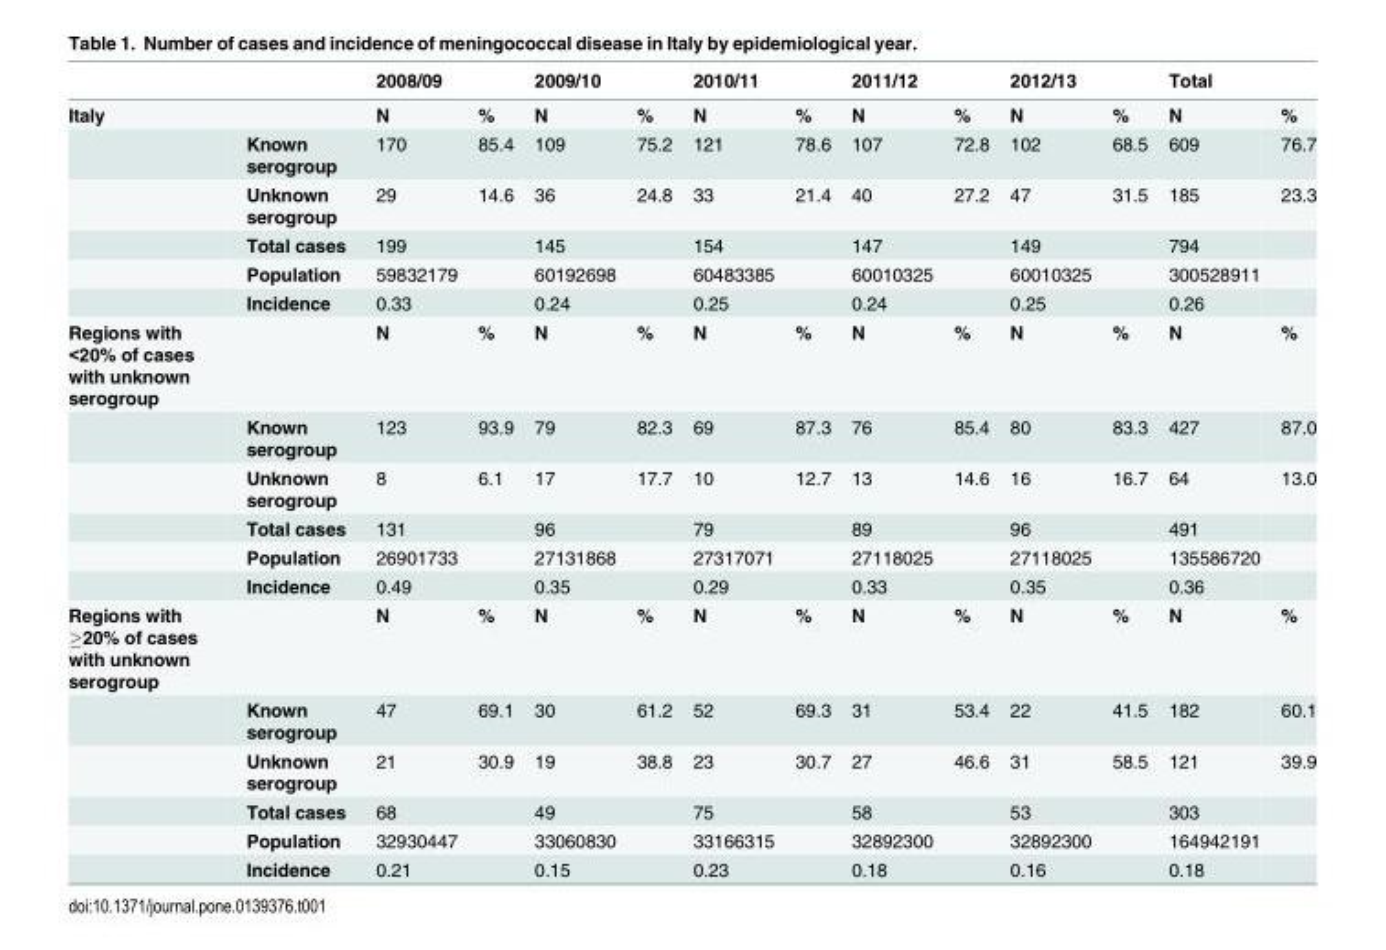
<table><thead><tr><td rowspan="2">Italy</td><td rowspan="2"></td><td colspan="2">2008/09</td><td colspan="2">2009/10</td><td colspan="2">2010/11</td><td colspan="2">2011/12</td><td colspan="2">2012/13</td><td colspan="2">Total</td></tr><tr><td>N</td><td>%</td><td>N</td><td>%</td><td>N</td><td>%</td><td>N</td><td>%</td><td>N</td><td>%</td><td>N</td><td>%</td></tr></thead><tbody><tr><td></td><td>Known serogroup</td><td>170</td><td>85.4</td><td>109</td><td>75.2</td><td>121</td><td>78.6</td><td>107</td><td>72.8</td><td>102</td><td>68.5</td><td>609</td><td>76.7</td></tr><tr><td></td><td>Unknown serogroup</td><td>29</td><td>14.6</td><td>36</td><td>24.8</td><td>33</td><td>21.4</td><td>40</td><td>27.2</td><td>47</td><td>31.5</td><td>185</td><td>23.3</td></tr><tr><td></td><td>Total cases</td><td>199</td><td></td><td>145</td><td></td><td>154</td><td></td><td>147</td><td></td><td>149</td><td></td><td>794</td><td></td></tr><tr><td></td><td>Population</td><td>59832179</td><td></td><td>60192698</td><td></td><td>60483385</td><td></td><td>60010325</td><td></td><td>60010325</td><td></td><td>300528911</td><td></td></tr><tr><td></td><td>Incidence</td><td>0.33</td><td></td><td>0.24</td><td></td><td>0.25</td><td></td><td>0.24</td><td></td><td>0.25</td><td></td><td>0.26</td><td></td></tr><tr><td rowspan="6">Regions with &lt;20% of cases with unknown serogroup</td><td></td><td>N</td><td>%</td><td>N</td><td>%</td><td>N</td><td>%</td><td>N</td><td>%</td><td>N</td><td>%</td><td>N</td><td>%</td></tr><tr><td>Known serogroup</td><td>123</td><td>93.9</td><td>79</td><td>82.3</td><td>69</td><td>87.3</td><td>76</td><td>85.4</td><td>80</td><td>83.3</td><td>427</td><td>87.0</td></tr><tr><td>Unknown serogroup</td><td>8</td><td>6.1</td><td>17</td><td>17.7</td><td>10</td><td>12.7</td><td>13</td><td>14.6</td><td>16</td><td>16.7</td><td>64</td><td>13.0</td></tr><tr><td>Total cases</td><td>131</td><td></td><td>96</td><td></td><td>79</td><td></td><td>89</td><td></td><td>96</td><td></td><td>491</td><td></td></tr><tr><td>Population</td><td>26901733</td><td></td><td>27131868</td><td></td><td>27317071</td><td></td><td>27118025</td><td></td><td>27118025</td><td></td><td>135586720</td><td></td></tr><tr><td>Incidence</td><td>0.49</td><td></td><td>0.35</td><td></td><td>0.29</td><td></td><td>0.33</td><td></td><td>0.35</td><td></td><td>0.36</td><td></td></tr><tr><td rowspan="6">Regions with ≥20% of cases with unknown serogroup</td><td></td><td>N</td><td>%</td><td>N</td><td>%</td><td>N</td><td>%</td><td>N</td><td>%</td><td>N</td><td>%</td><td>N</td><td>%</td></tr><tr><td>Known serogroup</td><td>47</td><td>69.1</td><td>30</td><td>61.2</td><td>52</td><td>69.3</td><td>31</td><td>53.4</td><td>22</td><td>41.5</td><td>182</td><td>60.1</td></tr><tr><td>Unknown serogroup</td><td>21</td><td>30.9</td><td>19</td><td>38.8</td><td>23</td><td>30.7</td><td>27</td><td>46.6</td><td>31</td><td>58.5</td><td>121</td><td>39.9</td></tr><tr><td>Total cases</td><td>68</td><td></td><td>49</td><td></td><td>75</td><td></td><td>58</td><td></td><td>53</td><td></td><td>303</td><td></td></tr><tr><td>Population</td><td>32930447</td><td></td><td>33060830</td><td></td><td>33166315</td><td></td><td>32892300</td><td></td><td>32892300</td><td></td><td>164942191</td><td></td></tr><tr><td>Incidence</td><td>0.21</td><td></td><td>0.15</td><td></td><td>0.23</td><td></td><td>0.18</td><td></td><td>0.16</td><td></td><td>0.18</td><td></td></tr></tbody></table>